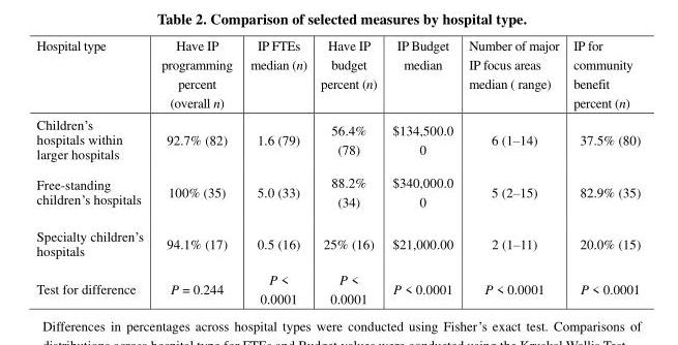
<table><thead><tr><td>Hospital type</td><td>Have IP programming percent (overall n)</td><td>IP FTEs median (n)</td><td>Have IP budget percent (n)</td><td>IP Budget median</td><td>Number of major IP focus areas median ( range)</td><td>IP for community benefit percent (n)</td></tr></thead><tbody><tr><td>Children’s hospitals within larger hospitals</td><td>92.7% (82)</td><td>1.6 (79)</td><td>56.4% (78)</td><td>$134,500.0 0</td><td>6 (1–14)</td><td>37.5% (80)</td></tr><tr><td>Free-standing children’s hospitals</td><td>100% (35)</td><td>5.0 (33)</td><td>88.2% (34)</td><td>$340,000.0 0</td><td>5 (2–15)</td><td>82.9% (35)</td></tr><tr><td>Specialty children’s hospitals</td><td>94.1% (17)</td><td>0.5 (16)</td><td>25% (16)</td><td>$21,000.00</td><td>2 (1–11)</td><td>20.0% (15)</td></tr><tr><td>Test for difference</td><td>P = 0.244</td><td>P &lt; 0.0001</td><td>P &lt; 0.0001</td><td>P &lt; 0.0001</td><td>P &lt; 0.0001</td><td>P &lt; 0.0001</td></tr></tbody></table>